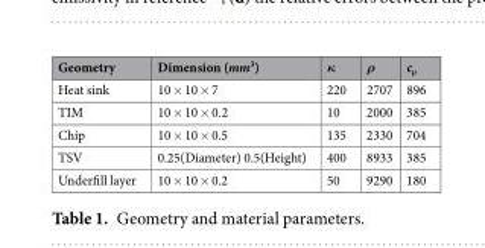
<table><thead><tr><td>Geometry</td><td>Dimension (mm<sup>3</sup>)</td><td>κ</td><td>ρ</td><td>c<sub>ρ</sub></td></tr></thead><tbody><tr><td>Heat sink</td><td>10 × 10 × 7</td><td>220</td><td>2707</td><td>896</td></tr><tr><td>TIM</td><td>10 × 10 × 0.2</td><td>10</td><td>2000</td><td>385</td></tr><tr><td>Chip</td><td>10 × 10 × 0.5</td><td>135</td><td>2330</td><td>704</td></tr><tr><td>TSV</td><td>0.25(Diameter) 0.5(Height)</td><td>400</td><td>8933</td><td>385</td></tr><tr><td>Underfill layer</td><td>10 × 10 × 0.2</td><td>50</td><td>9290</td><td>180</td></tr></tbody></table>